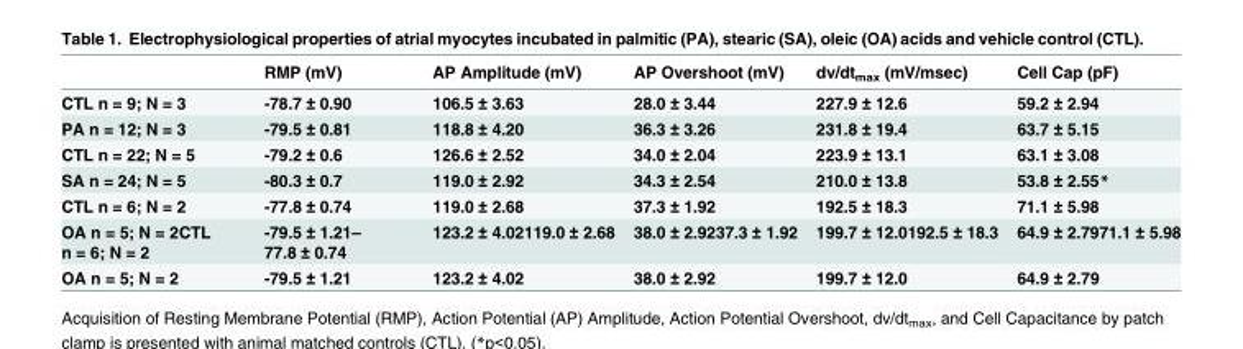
<table><thead><tr><td></td><td>RMP (mV)</td><td>AP Amplitude (mV)</td><td>AP Overshoot (mV)</td><td>dv/dt<sub>max</sub> (mV/msec)</td><td>Cell Cap (pF)</td></tr></thead><tbody><tr><td>CTL n = 9; N = 3</td><td>-78.7 ± 0.90</td><td>106.5 ± 3.63</td><td>28.0 ± 3.44</td><td>227.9 ± 12.6</td><td>59.2 ± 2.94</td></tr><tr><td>PA n = 12; N = 3</td><td>-79.5 ± 0.81</td><td>118.8 ± 4.20</td><td>36.3 ± 3.26</td><td>231.8 ± 19.4</td><td>63.7 ± 5.15</td></tr><tr><td>CTL n = 22; N = 5</td><td>-79.2 ± 0.6</td><td>126.6 ± 2.52</td><td>34.0 ± 2.04</td><td>223.9 ± 13.1</td><td>63.1 ± 3.08</td></tr><tr><td>SA n = 24; N = 5</td><td>-80.3 ± 0.7</td><td>119.0 ± 2.92</td><td>34.3 ± 2.54</td><td>210.0 ± 13.8</td><td>53.8 ± 2.55*</td></tr><tr><td>CTL n = 6; N = 2</td><td>-77.8 ± 0.74</td><td>119.0 ± 2.68</td><td>37.3 ± 1.92</td><td>192.5 ± 18.3</td><td>71.1 ± 5.98</td></tr><tr><td>OA n = 5; N = 2CTL n = 6; N = 2</td><td>-79.5 ± 1.21– 77.8 ± 0.74</td><td>123.2 ± 4.02119.0 ± 2.68</td><td>38.0 ± 2.9237.3 ± 1.92</td><td>199.7 ± 12.0192.5 ± 18.3</td><td>64.9 ± 2.7971.1 ± 5.98</td></tr><tr><td>OA n = 5; N = 2</td><td>-79.5 ± 1.21</td><td>123.2 ± 4.02</td><td>38.0 ± 2.92</td><td>199.7 ± 12.0</td><td>64.9 ± 2.79</td></tr></tbody></table>